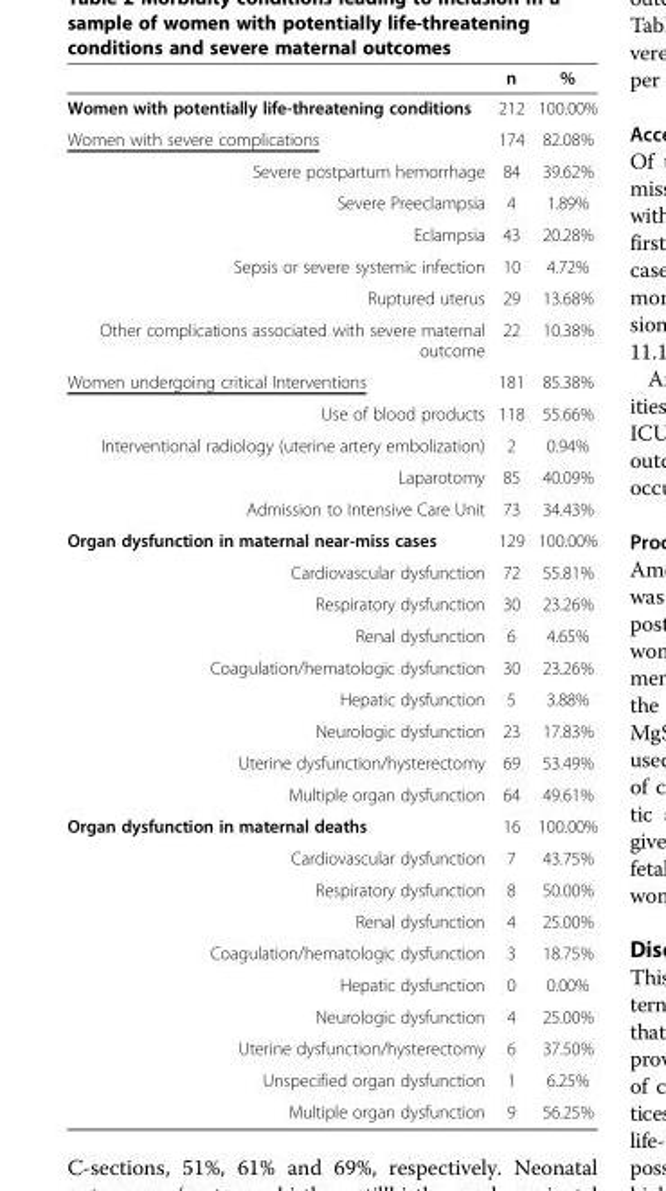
<table><thead><tr><td></td><td>n</td><td>%</td></tr></thead><tbody><tr><td>Women with potentially life-threatening conditions</td><td>212</td><td>100.00%</td></tr><tr><td>Women with severe complications</td><td>174</td><td>82.08%</td></tr><tr><td>Severe postpartum hemorrhage</td><td>84</td><td>39.62%</td></tr><tr><td>Severe Preeclampsia</td><td>4</td><td>1.89%</td></tr><tr><td>Eclampsia</td><td>43</td><td>20.28%</td></tr><tr><td>Sepsis or severe systemic infection</td><td>10</td><td>4.72%</td></tr><tr><td>Ruptured uterus</td><td>29</td><td>13.68%</td></tr><tr><td>Other complications associated with severe maternal outcome</td><td>22</td><td>10.38%</td></tr><tr><td>Women undergoing critical Interventions</td><td>181</td><td>85.38%</td></tr><tr><td>Use of blood products</td><td>118</td><td>55.66%</td></tr><tr><td>Interventional radiology (uterine artery embolization)</td><td>2</td><td>0.94%</td></tr><tr><td>Laparotomy</td><td>85</td><td>40.09%</td></tr><tr><td>Admission to Intensive Care Unit</td><td>73</td><td>34.43%</td></tr><tr><td>Organ dysfunction in maternal near-miss cases</td><td>129</td><td>100.00%</td></tr><tr><td>Cardiovascular dysfunction</td><td>72</td><td>55.81%</td></tr><tr><td>Respiratory dysfunction</td><td>30</td><td>23.26%</td></tr><tr><td>Renal dysfunction</td><td>6</td><td>4.65%</td></tr><tr><td>Coagulation/hematologic dysfunction</td><td>30</td><td>23.26%</td></tr><tr><td>Hepatic dysfunction</td><td>5</td><td>3.88%</td></tr><tr><td>Neurologic dysfunction</td><td>23</td><td>17.83%</td></tr><tr><td>Uterine dysfunction/hysterectomy</td><td>69</td><td>53.49%</td></tr><tr><td>Multiple organ dysfunction</td><td>64</td><td>49.61%</td></tr><tr><td>Organ dysfunction in maternal deaths</td><td>16</td><td>100.00%</td></tr><tr><td>Cardiovascular dysfunction</td><td>7</td><td>43.75%</td></tr><tr><td>Respiratory dysfunction</td><td>8</td><td>50.00%</td></tr><tr><td>Renal dysfunction</td><td>4</td><td>25.00%</td></tr><tr><td>Coagulation/hematologic dysfunction</td><td>3</td><td>18.75%</td></tr><tr><td>Hepatic dysfunction</td><td>0</td><td>0.00%</td></tr><tr><td>Neurologic dysfunction</td><td>4</td><td>25.00%</td></tr><tr><td>Uterine dysfunction/hysterectomy</td><td>6</td><td>37.50%</td></tr><tr><td>Unspecified organ dysfunction</td><td>1</td><td>6.25%</td></tr><tr><td>Multiple organ dysfunction</td><td>9</td><td>56.25%</td></tr></tbody></table>